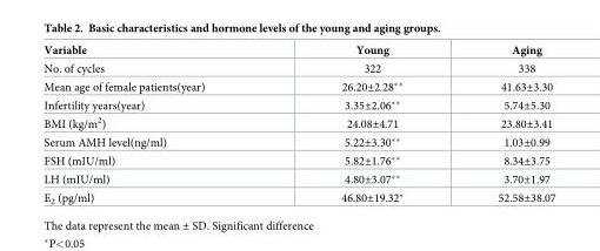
<table><thead><tr><td>Variable</td><td>Young</td><td>Aging</td></tr></thead><tbody><tr><td>No. of cycles</td><td>322</td><td>338</td></tr><tr><td>Mean age of female patients(year)</td><td>26.20±2.28**</td><td>41.63±3.30</td></tr><tr><td>Infertility years(year)</td><td>3.35±2.06**</td><td>5.74±5.30</td></tr><tr><td>BMI (kg/m<sup>2</sup>)</td><td>24.08±4.71</td><td>23.80±3.41</td></tr><tr><td>Serum AMH level(ng/ml)</td><td>5.22±3.30**</td><td>1.03±0.99</td></tr><tr><td>FSH (mIU/ml)</td><td>5.82±1.76**</td><td>8.34±3.75</td></tr><tr><td>LH (mIU/ml)</td><td>4.80±3.07**</td><td>3.70±1.97</td></tr><tr><td>E<sub>2</sub> (pg/ml)</td><td>46.80±19.32*</td><td>52.58±38.07</td></tr></tbody></table>